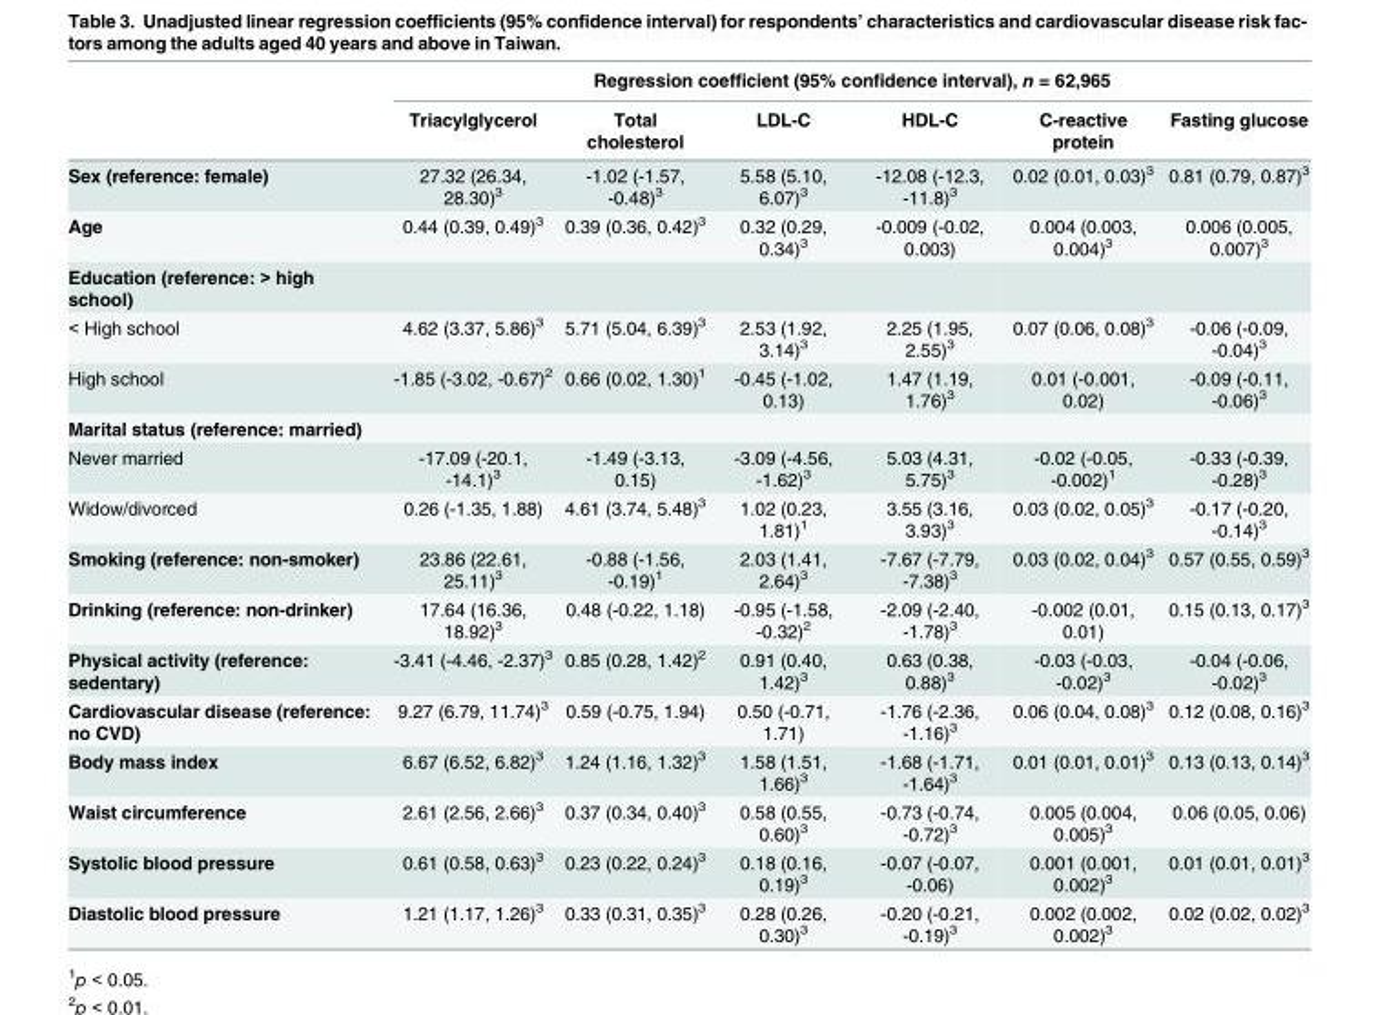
<table><thead><tr><td rowspan="2"></td><td colspan="6">Regression coefficient (95% confidence interval), n = 62,965</td></tr><tr><td>Triacylglycerol</td><td>Total cholesterol</td><td>LDL-C</td><td>HDL-C</td><td>C-reactive protein</td><td>Fasting glucose</td></tr></thead><tbody><tr><td>Sex (reference: female)</td><td>27.32 (26.34, 28.30)<sup>3</sup></td><td>-1.02 (-1.57, -0.48)<sup>3</sup></td><td>5.58 (5.10, 6.07)<sup>3</sup></td><td>-12.08 (-12.3, -11.8)<sup>3</sup></td><td>0.02 (0.01, 0.03)<sup>3</sup></td><td>0.81 (0.79, 0.87)<sup>3</sup></td></tr><tr><td>Age</td><td>0.44 (0.39, 0.49)<sup>3</sup></td><td>0.39 (0.36, 0.42)<sup>3</sup></td><td>0.32 (0.29, 0.34)<sup>3</sup></td><td>-0.009 (-0.02, 0.003)</td><td>0.004 (0.003, 0.004)<sup>3</sup></td><td>0.006 (0.005, 0.007)<sup>3</sup></td></tr><tr><td colspan="7">Education (reference: &gt; high school)</td></tr><tr><td>&lt; High school</td><td>4.62 (3.37, 5.86)<sup>3</sup></td><td>5.71 (5.04, 6.39)<sup>3</sup></td><td>2.53 (1.92, 3.14)<sup>3</sup></td><td>2.25 (1.95, 2.55)<sup>3</sup></td><td>0.07 (0.06, 0.08)<sup>3</sup></td><td>-0.06 (-0.09, -0.04)<sup>3</sup></td></tr><tr><td>High school</td><td>-1.85 (-3.02, -0.67)<sup>2</sup></td><td>0.66 (0.02, 1.30)<sup>1</sup></td><td>-0.45 (-1.02, 0.13)</td><td>1.47 (1.19, 1.76)<sup>3</sup></td><td>0.01 (-0.001, 0.02)</td><td>-0.09 (-0.11, -0.06)<sup>3</sup></td></tr><tr><td colspan="7">Marital status (reference: married)</td></tr><tr><td>Never married</td><td>-17.09 (-20.1, -14.1)<sup>3</sup></td><td>-1.49 (-3.13, 0.15)</td><td>-3.09 (-4.56, -1.62)<sup>3</sup></td><td>5.03 (4.31, 5.75)<sup>3</sup></td><td>-0.02 (-0.05, -0.002)<sup>1</sup></td><td>-0.33 (-0.39, -0.28)<sup>3</sup></td></tr><tr><td>Widow/divorced</td><td>0.26 (-1.35, 1.88)</td><td>4.61 (3.74, 5.48)<sup>3</sup></td><td>1.02 (0.23, 1.81)<sup>1</sup></td><td>3.55 (3.16, 3.93)<sup>3</sup></td><td>0.03 (0.02, 0.05)<sup>3</sup></td><td>-0.17 (-0.20, -0.14)<sup>3</sup></td></tr><tr><td>Smoking (reference: non-smoker)</td><td>23.86 (22.61, 25.11)<sup>3</sup></td><td>-0.88 (-1.56, -0.19)<sup>1</sup></td><td>2.03 (1.41, 2.64)<sup>3</sup></td><td>-7.67 (-7.79, -7.38)<sup>3</sup></td><td>0.03 (0.02, 0.04)<sup>3</sup></td><td>0.57 (0.55, 0.59)<sup>3</sup></td></tr><tr><td>Drinking (reference: non-drinker)</td><td>17.64 (16.36, 18.92)<sup>3</sup></td><td>0.48 (-0.22, 1.18)</td><td>-0.95 (-1.58, -0.32)<sup>2</sup></td><td>-2.09 (-2.40, -1.78)<sup>3</sup></td><td>-0.002 (0.01, 0.01)</td><td>0.15 (0.13, 0.17)<sup>3</sup></td></tr><tr><td>Physical activity (reference: sedentary)</td><td>-3.41 (-4.46, -2.37)<sup>3</sup></td><td>0.85 (0.28, 1.42)<sup>2</sup></td><td>0.91 (0.40, 1.42)<sup>3</sup></td><td>0.63 (0.38, 0.88)<sup>3</sup></td><td>-0.03 (-0.03, -0.02)<sup>3</sup></td><td>-0.04 (-0.06, -0.02)<sup>3</sup></td></tr><tr><td>Cardiovascular disease (reference: no CVD)</td><td>9.27 (6.79, 11.74)<sup>3</sup></td><td>0.59 (-0.75, 1.94)</td><td>0.50 (-0.71, 1.71)</td><td>-1.76 (-2.36, -1.16)<sup>3</sup></td><td>0.06 (0.04, 0.08)<sup>3</sup></td><td>0.12 (0.08, 0.16)<sup>3</sup></td></tr><tr><td>Body mass index</td><td>6.67 (6.52, 6.82)<sup>3</sup></td><td>1.24 (1.16, 1.32)<sup>3</sup></td><td>1.58 (1.51, 1.66)<sup>3</sup></td><td>-1.68 (-1.71, -1.64)<sup>3</sup></td><td>0.01 (0.01, 0.01)<sup>3</sup></td><td>0.13 (0.13, 0.14)<sup>3</sup></td></tr><tr><td>Waist circumference</td><td>2.61 (2.56, 2.66)<sup>3</sup></td><td>0.37 (0.34, 0.40)<sup>3</sup></td><td>0.58 (0.55, 0.60)<sup>3</sup></td><td>-0.73 (-0.74, -0.72)<sup>3</sup></td><td>0.005 (0.004, 0.005)<sup>3</sup></td><td>0.06 (0.05, 0.06)</td></tr><tr><td>Systolic blood pressure</td><td>0.61 (0.58, 0.63)<sup>3</sup></td><td>0.23 (0.22, 0.24)<sup>3</sup></td><td>0.18 (0.16, 0.19)<sup>3</sup></td><td>-0.07 (-0.07, -0.06)</td><td>0.001 (0.001, 0.002)<sup>3</sup></td><td>0.01 (0.01, 0.01)<sup>3</sup></td></tr><tr><td>Diastolic blood pressure</td><td>1.21 (1.17, 1.26)<sup>3</sup></td><td>0.33 (0.31, 0.35)<sup>3</sup></td><td>0.28 (0.26, 0.30)<sup>3</sup></td><td>-0.20 (-0.21, -0.19)<sup>3</sup></td><td>0.002 (0.002, 0.002)<sup>3</sup></td><td>0.02 (0.02, 0.02)<sup>3</sup></td></tr></tbody></table>